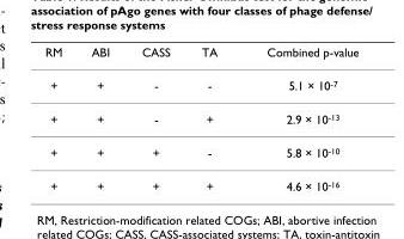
<table><thead><tr><td>RM</td><td>ABI</td><td>CASS</td><td>TA</td><td>Combined p-value</td></tr></thead><tbody><tr><td>+</td><td>+</td><td>-</td><td>-</td><td>5.1 × 10<sup>-7</sup></td></tr><tr><td>+</td><td>+</td><td>-</td><td>+</td><td>2.9 × 10<sup>-13</sup></td></tr><tr><td>+</td><td>+</td><td>+</td><td>-</td><td>5.8 × 10<sup>-10</sup></td></tr><tr><td>+</td><td>+</td><td>+</td><td>+</td><td>4.6 × 10<sup>-16</sup></td></tr></tbody></table>